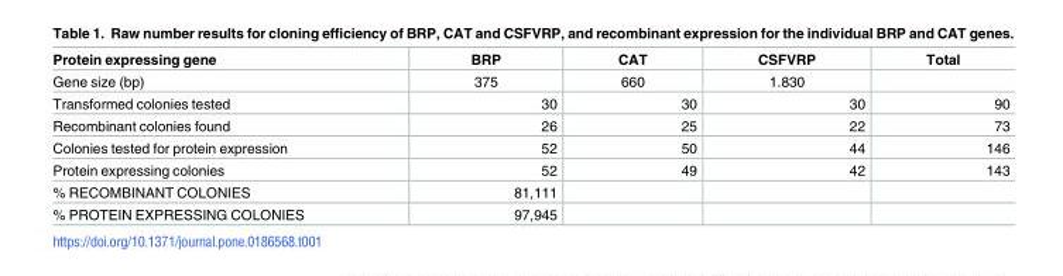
<table><thead><tr><td>Protein expressing gene</td><td>BRP</td><td>CAT</td><td>CSFVRP</td><td>Total</td></tr></thead><tbody><tr><td>Gene size (bp)</td><td>375</td><td>660</td><td>1.830</td><td></td></tr><tr><td>Transformed colonies tested</td><td>30</td><td>30</td><td>30</td><td>90</td></tr><tr><td>Recombinant colonies found</td><td>26</td><td>25</td><td>22</td><td>73</td></tr><tr><td>Colonies tested for protein expression</td><td>52</td><td>50</td><td>44</td><td>146</td></tr><tr><td>Protein expressing colonies</td><td>52</td><td>49</td><td>42</td><td>143</td></tr><tr><td>% RECOMBINANT COLONIES</td><td>81,111</td><td></td><td></td><td></td></tr><tr><td>% PROTEIN EXPRESSING COLONIES</td><td>97,945</td><td></td><td></td><td></td></tr></tbody></table>